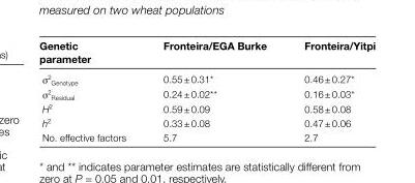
<table><thead><tr><td>Genetic parameter</td><td>Fronteira/EGA Burke</td><td>Fronteira/Yitpi</td></tr></thead><tbody><tr><td>σ<sup>2</sup> <sub>Genotype</sub></td><td>0.55 ± 0.31*</td><td>0.46 ± 0.27*</td></tr><tr><td>σ<sup>2</sup> <sub>Residual</sub></td><td>0.24 ± 0.02**</td><td>0.16 ± 0.03*</td></tr><tr><td>H<sup>2</sup></td><td>0.59 ± 0.09</td><td>0.58 ± 0.08</td></tr><tr><td>h<sup>2</sup></td><td>0.33 ± 0.08</td><td>0.47 ± 0.06</td></tr><tr><td>No. effective factors</td><td>5.7</td><td>2.7</td></tr></tbody></table>